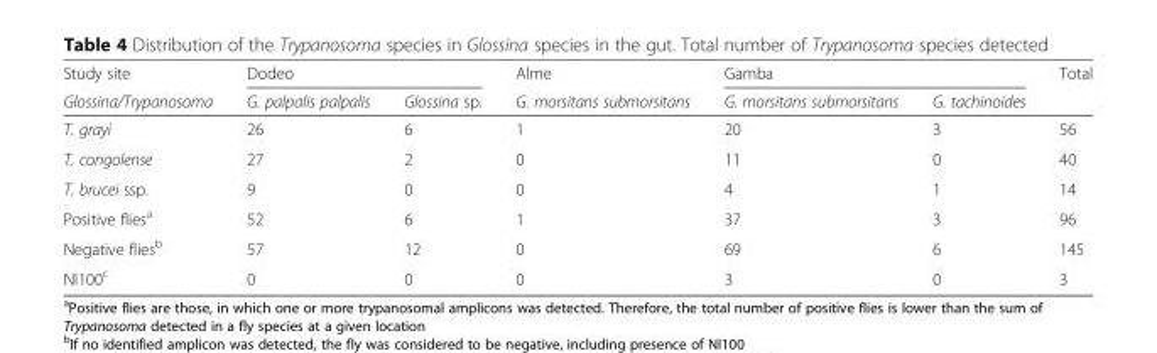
<table><thead><tr><td rowspan="2">Study site Glossina/Trypanosoma</td><td colspan="2">Dodeo</td><td rowspan="2">Alme G. morsitans submorsitans</td><td colspan="2">Gamba</td><td rowspan="2">Total</td></tr><tr><td>G. palpalis palpalis</td><td>Glossina sp.</td><td>G. morsitans submorsitans</td><td>G. tachinoides</td></tr></thead><tbody><tr><td>T. grayi</td><td>26</td><td>6</td><td>1</td><td>20</td><td>3</td><td>56</td></tr><tr><td>T. congolense</td><td>27</td><td>2</td><td>0</td><td>11</td><td>0</td><td>40</td></tr><tr><td>T. brucei ssp.</td><td>9</td><td>0</td><td>0</td><td>4</td><td>1</td><td>14</td></tr><tr><td>Positive flies<sup>a</sup></td><td>52</td><td>6</td><td>1</td><td>37</td><td>3</td><td>96</td></tr><tr><td>Negative flies<sup>b</sup></td><td>57</td><td>12</td><td>0</td><td>69</td><td>6</td><td>145</td></tr><tr><td>NI100<sup>c</sup></td><td>0</td><td>0</td><td>0</td><td>3</td><td>0</td><td>3</td></tr></tbody></table>